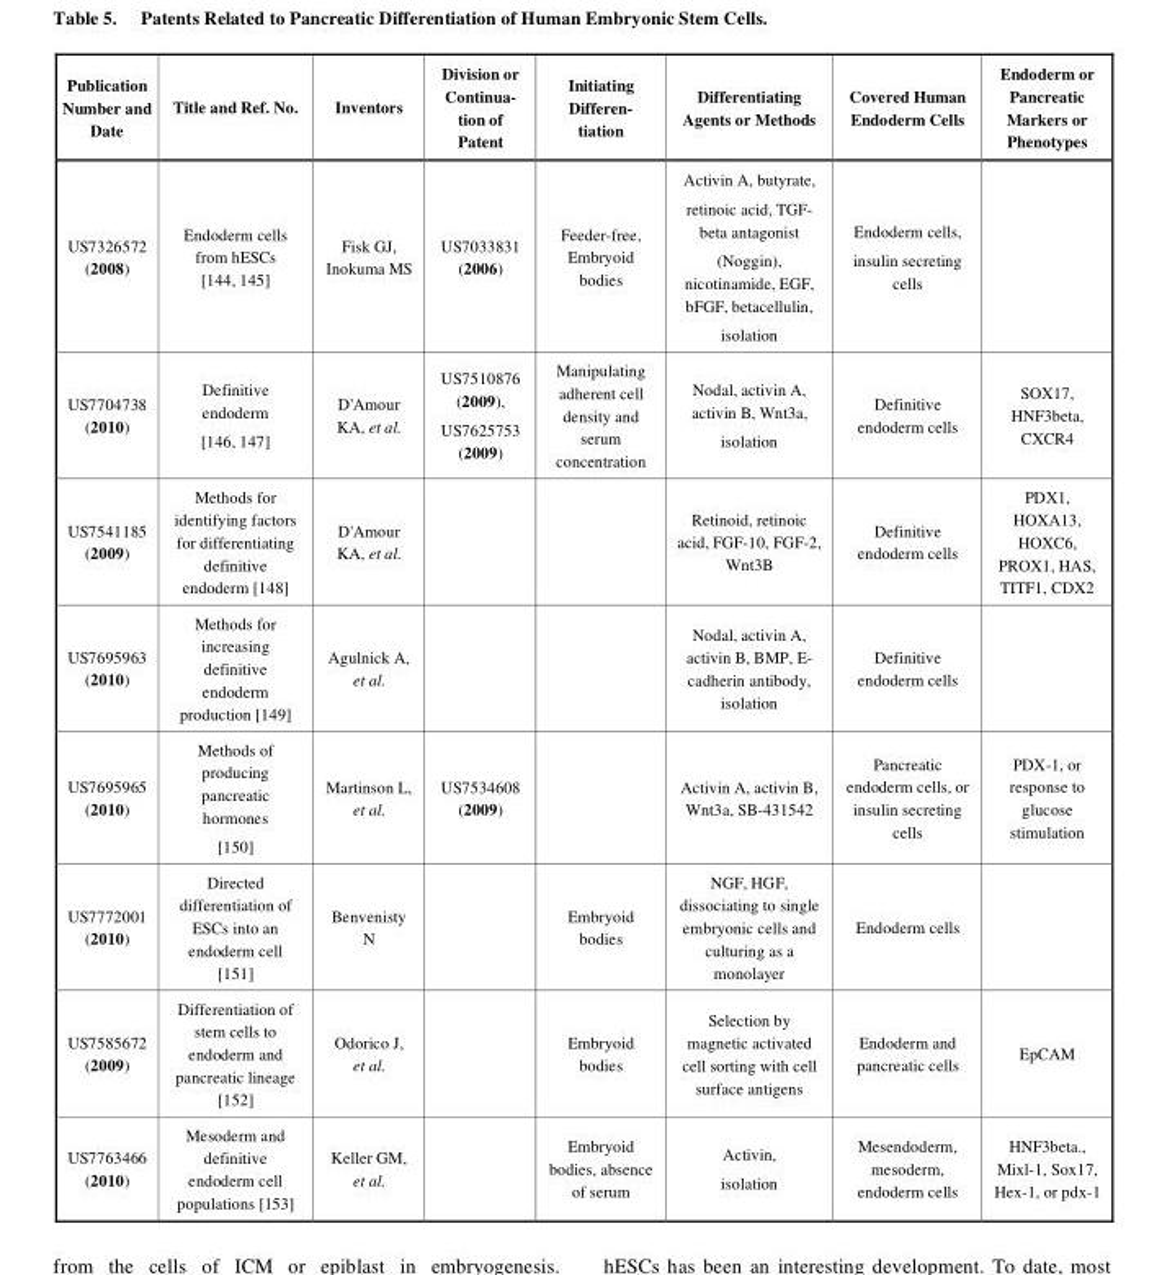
<table><thead><tr><td>Publication Number and Date</td><td>Title and Ref. No.</td><td>Inventors</td><td>Division or Continua- tion of Patent</td><td>Initiating Differen- tiation</td><td>Differentiating Agents or Methods</td><td>Covered Human Endoderm Cells</td><td>Endoderm or Pancreatic Markers or Phenotypes</td></tr></thead><tbody><tr><td>US7326572 (2008)</td><td>Endoderm cells from hESCs [144, 145]</td><td>Fisk GJ, Inokuma MS</td><td>US7033831 (2006)</td><td>Feeder-free, Embryoid bodies</td><td>Activin A, butyrate, retinoic acid, TGF- beta antagonist (Noggin), nicotinamide, EGF, bFGF, betacellulin, isolation</td><td>Endoderm cells, insulin secreting cells</td><td></td></tr><tr><td>US7704738 (2010)</td><td>Definitive endoderm [146, 147]</td><td>D&#x27;Amour KA, et al.</td><td>US7510876 (2009), US7625753 (2009)</td><td>Manipulating adherent cell density and serum concentration</td><td>Nodal, activin A, activin B, Wnt3a, isolation</td><td>Definitive endoderm cells</td><td>SOX17, HNF3beta, CXCR4</td></tr><tr><td>US7541185 (2009)</td><td>Methods for identifying factors for differentiating definitive endoderm [148]</td><td>D&#x27;Amour KA, et al.</td><td></td><td></td><td>Retinoid, retinoic acid, FGF-10, FGF-2, Wnt3B</td><td>Definitive endoderm cells</td><td>PDX1, HOXA13, HOXC6, PROX1, HAS, TITF1, CDX2</td></tr><tr><td>US7695963 (2010)</td><td>Methods for increasing definitive endoderm production [149]</td><td>Agulnick A, et al.</td><td></td><td></td><td>Nodal, activin A, activin B, BMP, E- cadherin antibody, isolation</td><td>Definitive endoderm cells</td><td></td></tr><tr><td>US7695965 (2010)</td><td>Methods of producing pancreatic hormones [150]</td><td>Martinson L, et al.</td><td>US7534608 (2009)</td><td></td><td>Activin A, activin B, Wnt3a, SB-431542</td><td>Pancreatic endoderm cells, or insulin secreting cells</td><td>PDX-1, or response to glucose stimulation</td></tr><tr><td>US7772001 (2010)</td><td>Directed differentiation of ESCs into an endoderm cell [151]</td><td>Benvenisty N</td><td></td><td>Embryoid bodies</td><td>NGF, HGF, dissociating to single embryonic cells and culturing as a monolayer</td><td>Endoderm cells</td><td></td></tr><tr><td>US7585672 (2009)</td><td>Differentiation of stem cells to endoderm and pancreatic lineage [152]</td><td>Odorico J, et al.</td><td></td><td>Embryoid bodies</td><td>Selection by magnetic activated cell sorting with cell surface antigens</td><td>Endoderm and pancreatic cells</td><td>EpCAM</td></tr><tr><td>US7763466 (2010)</td><td>Mesoderm and definitive endoderm cell populations [153]</td><td>Keller GM, et al.</td><td></td><td>Embryoid bodies, absence of serum</td><td>Activin, isolation</td><td>Mesendoderm, mesoderm, endoderm cells</td><td>HNF3beta., Mixl-1, Sox17, Hex-1, or pdx-1</td></tr></tbody></table>